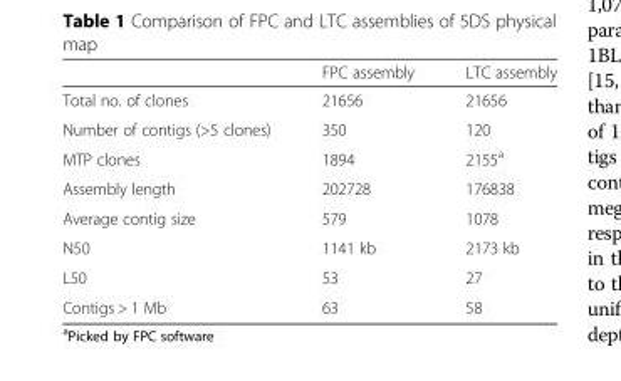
<table><thead><tr><td></td><td>FPC assembly</td><td>LTC assembly</td></tr></thead><tbody><tr><td>Total no. of clones</td><td>21656</td><td>21656</td></tr><tr><td>Number of contigs (&gt;5 clones)</td><td>350</td><td>120</td></tr><tr><td>MTP clones</td><td>1894</td><td>2155<sup>a</sup></td></tr><tr><td>Assembly length</td><td>202728</td><td>176838</td></tr><tr><td>Average contig size</td><td>579</td><td>1078</td></tr><tr><td>N50</td><td>1141 kb</td><td>2173 kb</td></tr><tr><td>L50</td><td>53</td><td>27</td></tr><tr><td>Contigs &gt; 1 Mb</td><td>63</td><td>58</td></tr></tbody></table>